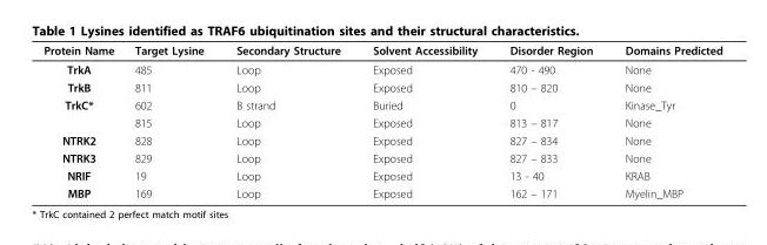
<table><thead><tr><td>Protein Name</td><td>Target Lysine</td><td>Secondary Structure</td><td>Solvent Accessibility</td><td>Disorder Region</td><td>Domains Predicted</td></tr></thead><tbody><tr><td>TrkA</td><td>485</td><td>Loop</td><td>Exposed</td><td>470 - 490</td><td>None</td></tr><tr><td>TrkB</td><td>811</td><td>Loop</td><td>Exposed</td><td>810 – 820</td><td>None</td></tr><tr><td rowspan="2">TrkC*</td><td>602</td><td>B strand</td><td>Buried</td><td>0</td><td>Kinase_Tyr</td></tr><tr><td>815</td><td>Loop</td><td>Exposed</td><td>813 – 817</td><td>None</td></tr><tr><td>NTRK2</td><td>828</td><td>Loop</td><td>Exposed</td><td>827 – 834</td><td>None</td></tr><tr><td>NTRK3</td><td>829</td><td>Loop</td><td>Exposed</td><td>827 – 833</td><td>None</td></tr><tr><td>NRIF</td><td>19</td><td>Loop</td><td>Exposed</td><td>13 - 40</td><td>KRAB</td></tr><tr><td>MBP</td><td>169</td><td>Loop</td><td>Exposed</td><td>162 – 171</td><td>Myelin_MBP</td></tr></tbody></table>